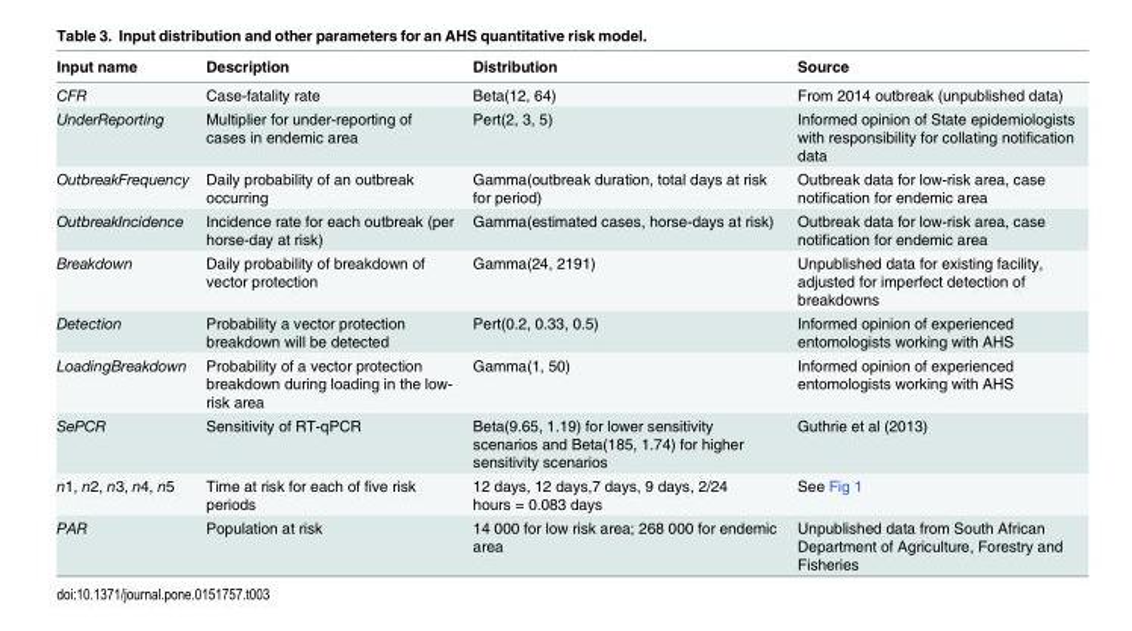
<table><thead><tr><td>Input name</td><td>Description</td><td>Distribution</td><td>Source</td></tr></thead><tbody><tr><td>CFR</td><td>Case-fatality rate</td><td>Beta(12, 64)</td><td>From 2014 outbreak (unpublished data)</td></tr><tr><td>UnderReporting</td><td>Multiplier for under-reporting of cases in endemic area</td><td>Pert(2, 3, 5)</td><td>Informed opinion of State epidemiologists with responsibility for collating notification data</td></tr><tr><td>OutbreakFrequency</td><td>Daily probability of an outbreak occurring</td><td>Gamma(outbreak duration, total days at risk for period)</td><td>Outbreak data for low-risk area, case notification for endemic area</td></tr><tr><td>OutbreakIncidence</td><td>Incidence rate for each outbreak (per horse-day at risk)</td><td>Gamma(estimated cases, horse-days at risk)</td><td>Outbreak data for low-risk area, case notification for endemic area</td></tr><tr><td>Breakdown</td><td>Daily probability of breakdown of vector protection</td><td>Gamma(24, 2191)</td><td>Unpublished data for existing facility, adjusted for imperfect detection of breakdowns</td></tr><tr><td>Detection</td><td>Probability a vector protection breakdown will be detected</td><td>Pert(0.2, 0.33, 0.5)</td><td>Informed opinion of experienced entomologists working with AHS</td></tr><tr><td>LoadingBreakdown</td><td>Probability of a vector protection breakdown during loading in the low- risk area</td><td>Gamma(1, 50)</td><td>Informed opinion of experienced entomologists working with AHS</td></tr><tr><td>SePCR</td><td>Sensitivity of RT-qPCR</td><td>Beta(9.65, 1.19) for lower sensitivity scenarios and Beta(185, 1.74) for higher sensitivity scenarios</td><td>Guthrie et al (2013)</td></tr><tr><td>n1, n2, n3, n4, n5</td><td>Time at risk for each of five risk periods</td><td>12 days, 12 days,7 days, 9 days, 2/24 hours = 0.083 days</td><td>See Fig 1</td></tr><tr><td>PAR</td><td>Population at risk</td><td>14 000 for low risk area; 268 000 for endemic area</td><td>Unpublished data from South African Department of Agriculture, Forestry and Fisheries</td></tr></tbody></table>